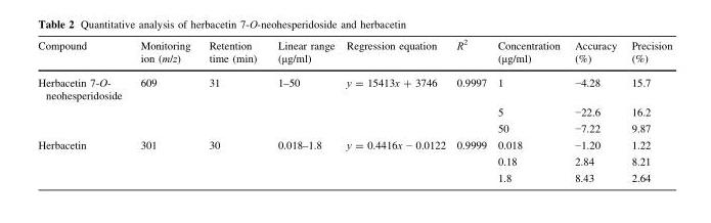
<table><thead><tr><td>Compound</td><td>Monitoring ion (m/z)</td><td>Retention time (min)</td><td>Linear range (μg/ml)</td><td>Regression equation</td><td>R<sup>2</sup></td><td>Concentration (μg/ml)</td><td>Accuracy (%)</td><td>Precision (%)</td></tr></thead><tbody><tr><td rowspan="3">Herbacetin 7-O- neohesperidoside</td><td>609</td><td>31</td><td>1–50</td><td>y = 15413x + 3746</td><td>0.9997</td><td>1</td><td>−4.28</td><td>15.7</td></tr><tr><td></td><td></td><td></td><td></td><td></td><td>5</td><td>−22.6</td><td>16.2</td></tr><tr><td></td><td></td><td></td><td></td><td></td><td>50</td><td>−7.22</td><td>9.87</td></tr><tr><td rowspan="3">Herbacetin</td><td>301</td><td>30</td><td>0.018–1.8</td><td>y = 0.4416x − 0.0122</td><td>0.9999</td><td>0.018</td><td>−1.20</td><td>1.22</td></tr><tr><td></td><td></td><td></td><td></td><td></td><td>0.18</td><td>2.84</td><td>8.21</td></tr><tr><td></td><td></td><td></td><td></td><td></td><td>1.8</td><td>8.43</td><td>2.64</td></tr></tbody></table>